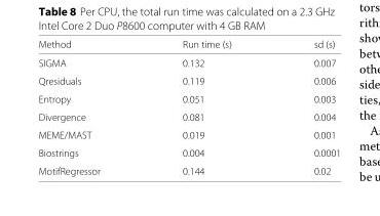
<table><thead><tr><td>Method</td><td>Run time (s)</td><td>sd (s)</td></tr></thead><tbody><tr><td>SIGMA</td><td>0.132</td><td>0.007</td></tr><tr><td>Qresiduals</td><td>0.119</td><td>0.006</td></tr><tr><td>Entropy</td><td>0.051</td><td>0.003</td></tr><tr><td>Divergence</td><td>0.081</td><td>0.004</td></tr><tr><td>MEME/MAST</td><td>0.019</td><td>0.001</td></tr><tr><td>Biostrings</td><td>0.004</td><td>0.0001</td></tr><tr><td>MotifRegressor</td><td>0.144</td><td>0.02</td></tr></tbody></table>